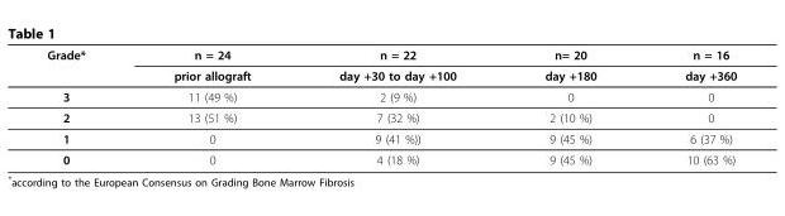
<table><thead><tr><td rowspan="2">Grade*</td><td rowspan="2">n = 24 prior allograft</td><td rowspan="2">n = 22 day +30 to day +100</td><td rowspan="2">n= 20 day +180</td><td rowspan="2">n = 16 day +360</td></tr><tr></tr></thead><tbody><tr><td>3</td><td>11 (49 %)</td><td>2 (9 %)</td><td>0</td><td>0</td></tr><tr><td>2</td><td>13 (51 %)</td><td>7 (32 %)</td><td>2 (10 %)</td><td>0</td></tr><tr><td>1</td><td>0</td><td>9 (41 %))</td><td>9 (45 %)</td><td>6 (37 %)</td></tr><tr><td>0</td><td>0</td><td>4 (18 %)</td><td>9 (45 %)</td><td>10 (63 %)</td></tr></tbody></table>